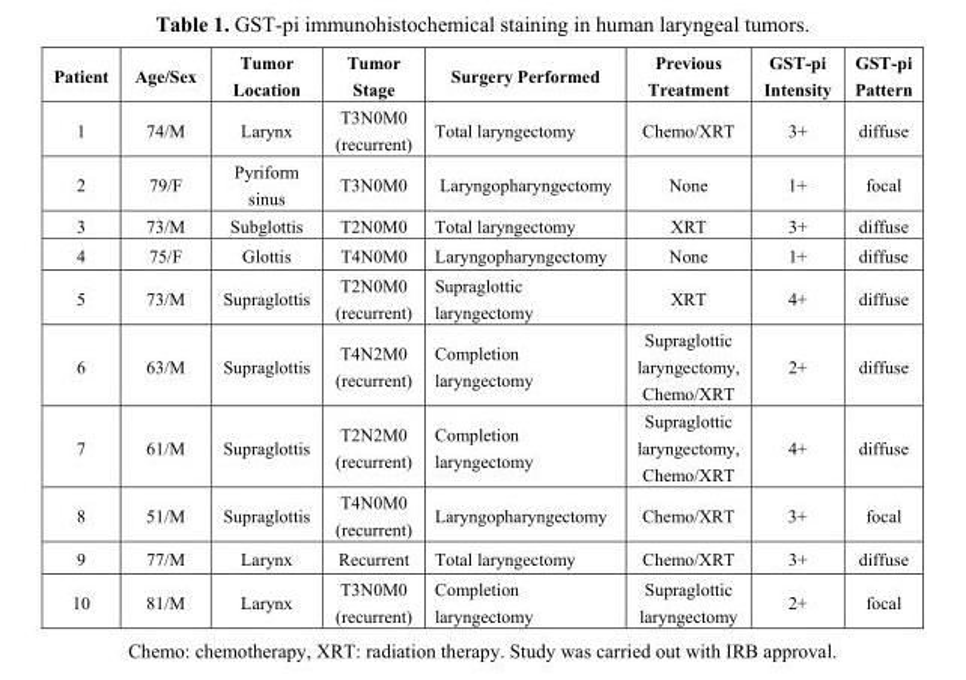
<table><thead><tr><td>Patient</td><td>Age/Sex</td><td>Tumor Location</td><td>Tumor Stage</td><td>Surgery Performed</td><td>Previous Treatment</td><td>GST-pi Intensity</td><td>GST-pi Pattern</td></tr></thead><tbody><tr><td>1</td><td>74/M</td><td>Larynx</td><td>T3N0M0 (recurrent)</td><td>Total laryngectomy</td><td>Chemo/XRT</td><td>3+</td><td>diffuse</td></tr><tr><td>2</td><td>79/F</td><td>Pyriform sinus</td><td>T3N0M0</td><td>Laryngopharyngectomy</td><td>None</td><td>1+</td><td>focal</td></tr><tr><td>3</td><td>73/M</td><td>Subglottis</td><td>T2N0M0</td><td>Total laryngectomy</td><td>XRT</td><td>3+</td><td>diffuse</td></tr><tr><td>4</td><td>75/F</td><td>Glottis</td><td>T4N0M0</td><td>Laryngopharyngectomy</td><td>None</td><td>1+</td><td>diffuse</td></tr><tr><td>5</td><td>73/M</td><td>Supraglottis</td><td>T2N0M0 (recurrent)</td><td>Supraglottic laryngectomy</td><td>XRT</td><td>4+</td><td>diffuse</td></tr><tr><td>6</td><td>63/M</td><td>Supraglottis</td><td>T4N2M0 (recurrent)</td><td>Completion laryngectomy</td><td>Supraglottic laryngectomy, Chemo/XRT</td><td>2+</td><td>diffuse</td></tr><tr><td>7</td><td>61/M</td><td>Supraglottis</td><td>T2N2M0 (recurrent)</td><td>Completion laryngectomy</td><td>Supraglottic laryngectomy, Chemo/XRT</td><td>4+</td><td>diffuse</td></tr><tr><td>8</td><td>51/M</td><td>Supraglottis</td><td>T4N0M0 (recurrent)</td><td>Laryngopharyngectomy</td><td>Chemo/XRT</td><td>3+</td><td>focal</td></tr><tr><td>9</td><td>77/M</td><td>Larynx</td><td>Recurrent</td><td>Total laryngectomy</td><td>Chemo/XRT</td><td>3+</td><td>diffuse</td></tr><tr><td>10</td><td>81/M</td><td>Larynx</td><td>T3N0M0 (recurrent)</td><td>Completion laryngectomy</td><td>Supraglottic laryngectomy</td><td>2+</td><td>focal</td></tr></tbody></table>